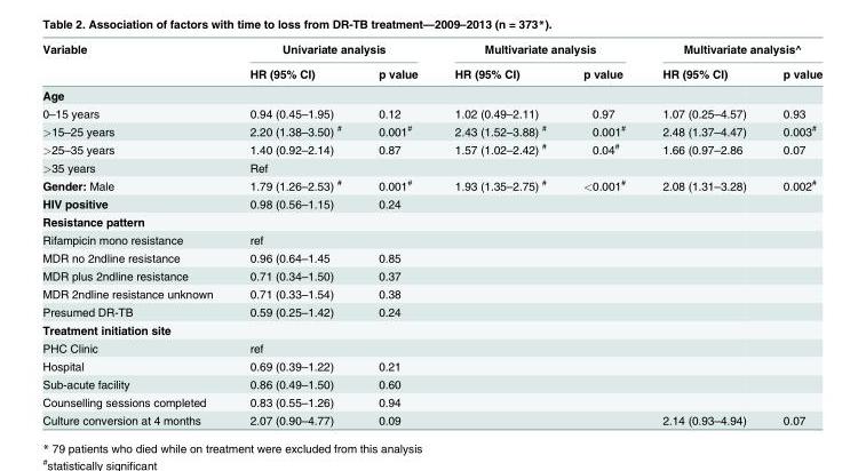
<table><thead><tr><td rowspan="2">Variable</td><td colspan="2">Univariate analysis</td><td colspan="2">Multivariate analysis</td><td colspan="2">Multivariate analysis^</td></tr><tr><td>HR (95% CI)</td><td>p value</td><td>HR (95% CI)</td><td>p value</td><td>HR (95% CI)</td><td>p value</td></tr></thead><tbody><tr><td colspan="7">Age</td></tr><tr><td>0–15 years</td><td>0.94 (0.45–1.95)</td><td>0.12</td><td>1.02 (0.49–2.11)</td><td>0.97</td><td>1.07 (0.25–4.57)</td><td>0.93</td></tr><tr><td>&gt;15–25 years</td><td>2.20 (1.38–3.50) <sup>#</sup></td><td>0.001<sup>#</sup></td><td>2.43 (1.52–3.88) <sup>#</sup></td><td>0.001<sup>#</sup></td><td>2.48 (1.37–4.47)</td><td>0.003<sup>#</sup></td></tr><tr><td>&gt;25–35 years</td><td>1.40 (0.92–2.14)</td><td>0.87</td><td>1.57 (1.02–2.42) <sup>#</sup></td><td>0.04<sup>#</sup></td><td>1.66 (0.97–2.86</td><td>0.07</td></tr><tr><td>&gt;35 years</td><td>Ref</td><td></td><td></td><td></td><td></td><td></td></tr><tr><td>Gender: Male</td><td>1.79 (1.26–2.53) <sup>#</sup></td><td>0.001<sup>#</sup></td><td>1.93 (1.35–2.75) <sup>#</sup></td><td>&lt;0.001<sup>#</sup></td><td>2.08 (1.31–3.28)</td><td>0.002<sup>#</sup></td></tr><tr><td>HIV positive</td><td>0.98 (0.56–1.15)</td><td>0.24</td><td></td><td></td><td></td><td></td></tr><tr><td colspan="7">Resistance pattern</td></tr><tr><td>Rifampicin mono resistance</td><td>ref</td><td></td><td></td><td></td><td></td><td></td></tr><tr><td>MDR no 2ndline resistance</td><td>0.96 (0.64–1.45</td><td>0.85</td><td></td><td></td><td></td><td></td></tr><tr><td>MDR plus 2ndline resistance</td><td>0.71 (0.34–1.50)</td><td>0.37</td><td></td><td></td><td></td><td></td></tr><tr><td>MDR 2ndline resistance unknown</td><td>0.71 (0.33–1.54)</td><td>0.38</td><td></td><td></td><td></td><td></td></tr><tr><td>Presumed DR-TB</td><td>0.59 (0.25–1.42)</td><td>0.24</td><td></td><td></td><td></td><td></td></tr><tr><td colspan="7">Treatment initiation site</td></tr><tr><td>PHC Clinic</td><td>ref</td><td></td><td></td><td></td><td></td><td></td></tr><tr><td>Hospital</td><td>0.69 (0.39–1.22)</td><td>0.21</td><td></td><td></td><td></td><td></td></tr><tr><td>Sub-acute facility</td><td>0.86 (0.49–1.50)</td><td>0.60</td><td></td><td></td><td></td><td></td></tr><tr><td>Counselling sessions completed</td><td>0.83 (0.55–1.26)</td><td>0.94</td><td></td><td></td><td></td><td></td></tr><tr><td>Culture conversion at 4 months</td><td>2.07 (0.90–4.77)</td><td>0.09</td><td></td><td></td><td>2.14 (0.93–4.94)</td><td>0.07</td></tr></tbody></table>